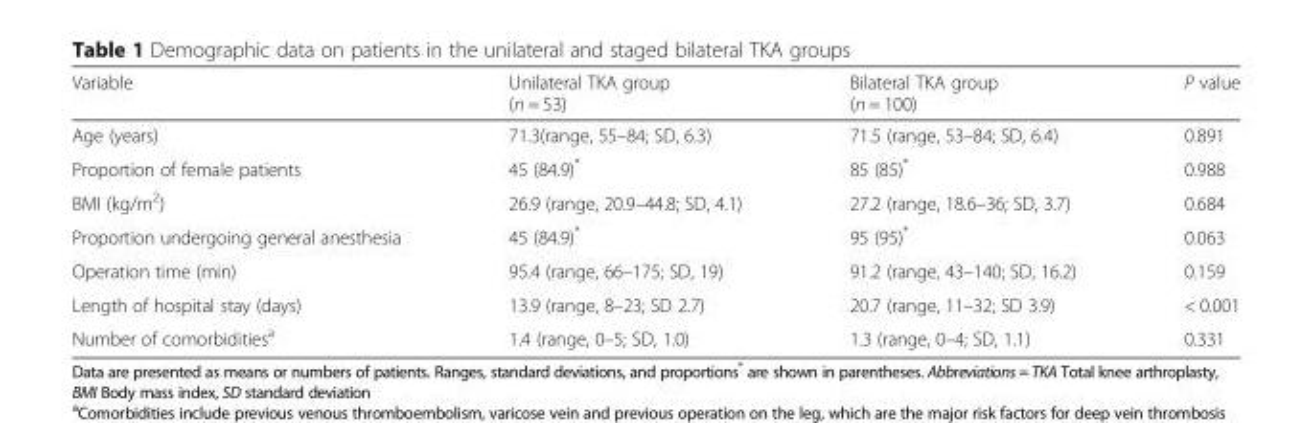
<table><thead><tr><td>Variable</td><td>Unilateral TKA group (n = 53)</td><td>Bilateral TKA group (n = 100)</td><td>P value</td></tr></thead><tbody><tr><td>Age (years)</td><td>71.3(range, 55–84; SD, 6.3)</td><td>71.5 (range, 53–84; SD, 6.4)</td><td>0.891</td></tr><tr><td>Proportion of female patients</td><td>45 (84.9)*</td><td>85 (85)*</td><td>0.988</td></tr><tr><td>BMI (kg/m<sup>2</sup>)</td><td>26.9 (range, 20.9–44.8; SD, 4.1)</td><td>27.2 (range, 18.6–36; SD, 3.7)</td><td>0.684</td></tr><tr><td>Proportion undergoing general anesthesia</td><td>45 (84.9)*</td><td>95 (95)*</td><td>0.063</td></tr><tr><td>Operation time (min)</td><td>95.4 (range, 66–175; SD, 19)</td><td>91.2 (range, 43–140; SD, 16.2)</td><td>0.159</td></tr><tr><td>Length of hospital stay (days)</td><td>13.9 (range, 8–23; SD 2.7)</td><td>20.7 (range, 11–32; SD 3.9)</td><td>&lt; 0.001</td></tr><tr><td>Number of comorbidities<sup>a</sup></td><td>1.4 (range, 0–5; SD, 1.0)</td><td>1.3 (range, 0–4; SD, 1.1)</td><td>0.331</td></tr></tbody></table>